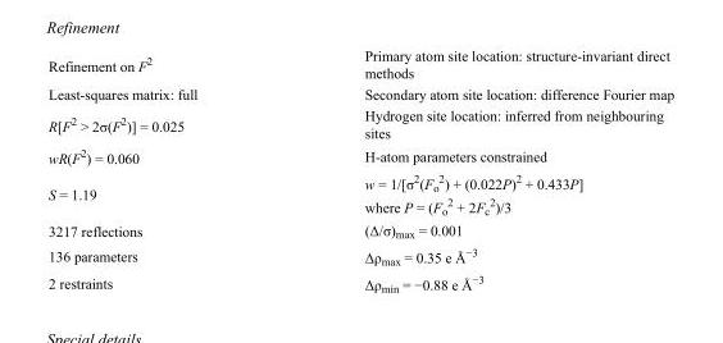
<table><tbody><tr><td>Refinement on F<sup>2</sup></td><td>Primary atom site location: structure-invariant direct methods</td></tr><tr><td>Least-squares matrix: full</td><td>Secondary atom site location: difference Fourier map</td></tr><tr><td>R[F<sup>2</sup> &gt; 2σ(F<sup>2</sup>)] = 0.025</td><td>Hydrogen site location: inferred from neighbouring sites</td></tr><tr><td>wR(F<sup>2</sup>) = 0.060</td><td>H-atom parameters constrained</td></tr><tr><td>S = 1.19</td><td>w = 1/[σ<sup>2</sup>(F<sub>o</sub> <sup>2</sup>) + (0.022P)<sup>2</sup> + 0.433P] where P = (F<sub>o</sub> <sup>2</sup> + 2F<sub>c</sub> <sup>2</sup>)/3</td></tr><tr><td>3217 reflections</td><td>(Δ/σ)<sub>max</sub> = 0.001</td></tr><tr><td>136 parameters</td><td>Δρ<sub>max</sub> = 0.35 e Å<sup>−3</sup></td></tr><tr><td>2 restraints</td><td>Δρ<sub>min</sub> = −0.88 e Å<sup>−3</sup></td></tr></tbody></table>